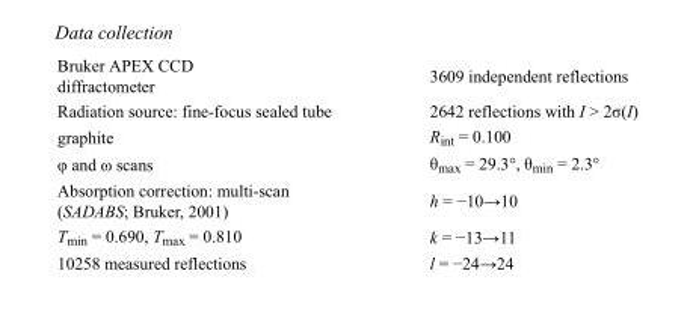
<table><tbody><tr><td>Bruker APEX CCD diffractometer</td><td>3609 independent reflections</td></tr><tr><td>Radiation source: fine-focus sealed tube</td><td>2642 reflections with I &gt; 2σ(I)</td></tr><tr><td>graphite</td><td>R<sub>int</sub> = 0.100</td></tr><tr><td>φ and ω scans</td><td>θ<sub>max</sub> = 29.3°, θ<sub>min</sub> = 2.3°</td></tr><tr><td>Absorption correction: multi-scan (SADABS; Bruker, 2001)</td><td>h = −10→10</td></tr><tr><td>T<sub>min</sub> = 0.690, T<sub>max</sub> = 0.810</td><td>k = −13→11</td></tr><tr><td>10258 measured reflections</td><td>l = −24→24</td></tr></tbody></table>